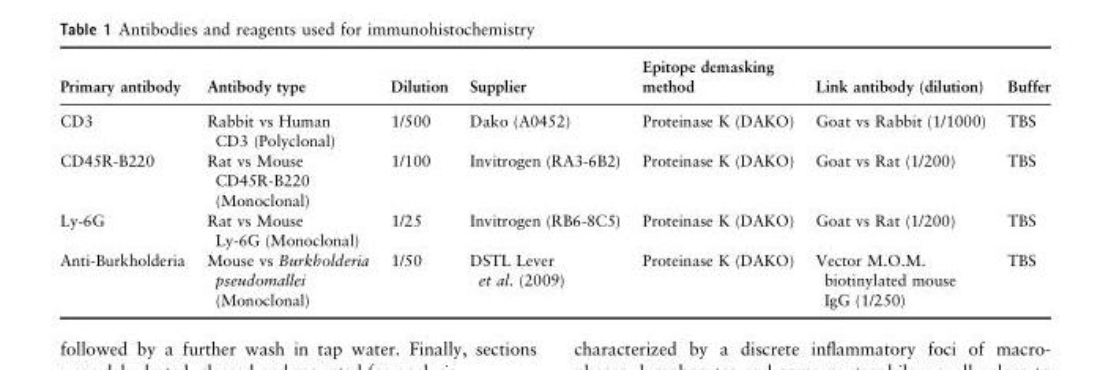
<table><thead><tr><td>Primary antibody</td><td>Antibody type</td><td>Dilution</td><td>Supplier</td><td>Epitope demasking method</td><td>Link antibody (dilution)</td><td>Buffer</td></tr></thead><tbody><tr><td>CD3</td><td>Rabbit vs Human CD3 (Polyclonal)</td><td>1/500</td><td>Dako (A0452)</td><td>Proteinase K (DAKO)</td><td>Goat vs Rabbit (1/1000)</td><td>TBS</td></tr><tr><td>CD45R-B220</td><td>Rat vs Mouse CD45R-B220 (Monoclonal)</td><td>1/100</td><td>Invitrogen (RA3-6B2)</td><td>Proteinase K (DAKO)</td><td>Goat vs Rat (1/200)</td><td>TBS</td></tr><tr><td>Ly-6G</td><td>Rat vs Mouse Ly-6G (Monoclonal)</td><td>1/25</td><td>Invitrogen (RB6-8C5)</td><td>Proteinase K (DAKO)</td><td>Goat vs Rat (1/200)</td><td>TBS</td></tr><tr><td>Anti-Burkholderia</td><td>Mouse vs Burkholderia pseudomallei (Monoclonal)</td><td>1/50</td><td>DSTL Lever et al. (2009)</td><td>Proteinase K (DAKO)</td><td>Vector M.O.M. biotinylated mouse IgG (1/250)</td><td>TBS</td></tr></tbody></table>